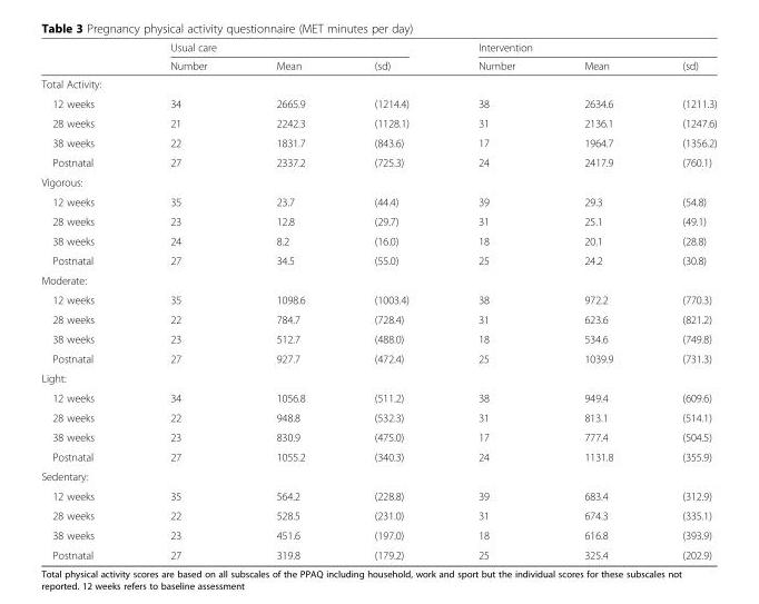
<table><thead><tr><td rowspan="2"></td><td colspan="3">Usual care</td><td colspan="3">Intervention</td></tr><tr><td>Number</td><td>Mean</td><td>(sd)</td><td>Number</td><td>Mean</td><td>(sd)</td></tr></thead><tbody><tr><td colspan="7">Total Activity:</td></tr><tr><td>12 weeks</td><td>34</td><td>2665.9</td><td>(1214.4)</td><td>38</td><td>2634.6</td><td>(1211.3)</td></tr><tr><td>28 weeks</td><td>21</td><td>2242.3</td><td>(1128.1)</td><td>31</td><td>2136.1</td><td>(1247.6)</td></tr><tr><td>38 weeks</td><td>22</td><td>1831.7</td><td>(843.6)</td><td>17</td><td>1964.7</td><td>(1356.2)</td></tr><tr><td>Postnatal</td><td>27</td><td>2337.2</td><td>(725.3)</td><td>24</td><td>2417.9</td><td>(760.1)</td></tr><tr><td colspan="7">Vigorous:</td></tr><tr><td>12 weeks</td><td>35</td><td>23.7</td><td>(44.4)</td><td>39</td><td>29.3</td><td>(54.8)</td></tr><tr><td>28 weeks</td><td>23</td><td>12.8</td><td>(29.7)</td><td>31</td><td>25.1</td><td>(49.1)</td></tr><tr><td>38 weeks</td><td>24</td><td>8.2</td><td>(16.0)</td><td>18</td><td>20.1</td><td>(28.8)</td></tr><tr><td>Postnatal</td><td>27</td><td>34.5</td><td>(55.0)</td><td>25</td><td>24.2</td><td>(30.8)</td></tr><tr><td colspan="7">Moderate:</td></tr><tr><td>12 weeks</td><td>35</td><td>1098.6</td><td>(1003.4)</td><td>38</td><td>972.2</td><td>(770.3)</td></tr><tr><td>28 weeks</td><td>22</td><td>784.7</td><td>(728.4)</td><td>31</td><td>623.6</td><td>(821.2)</td></tr><tr><td>38 weeks</td><td>23</td><td>512.7</td><td>(488.0)</td><td>18</td><td>534.6</td><td>(749.8)</td></tr><tr><td>Postnatal</td><td>27</td><td>927.7</td><td>(472.4)</td><td>25</td><td>1039.9</td><td>(731.3)</td></tr><tr><td colspan="7">Light:</td></tr><tr><td>12 weeks</td><td>34</td><td>1056.8</td><td>(511.2)</td><td>38</td><td>949.4</td><td>(609.6)</td></tr><tr><td>28 weeks</td><td>22</td><td>948.8</td><td>(532.3)</td><td>31</td><td>813.1</td><td>(514.1)</td></tr><tr><td>38 weeks</td><td>23</td><td>830.9</td><td>(475.0)</td><td>17</td><td>777.4</td><td>(504.5)</td></tr><tr><td>Postnatal</td><td>27</td><td>1055.2</td><td>(340.3)</td><td>24</td><td>1131.8</td><td>(355.9)</td></tr><tr><td colspan="7">Sedentary:</td></tr><tr><td>12 weeks</td><td>35</td><td>564.2</td><td>(228.8)</td><td>39</td><td>683.4</td><td>(312.9)</td></tr><tr><td>28 weeks</td><td>22</td><td>528.5</td><td>(231.0)</td><td>31</td><td>674.3</td><td>(335.1)</td></tr><tr><td>38 weeks</td><td>23</td><td>451.6</td><td>(197.0)</td><td>18</td><td>616.8</td><td>(393.9)</td></tr><tr><td>Postnatal</td><td>27</td><td>319.8</td><td>(179.2)</td><td>25</td><td>325.4</td><td>(202.9)</td></tr></tbody></table>